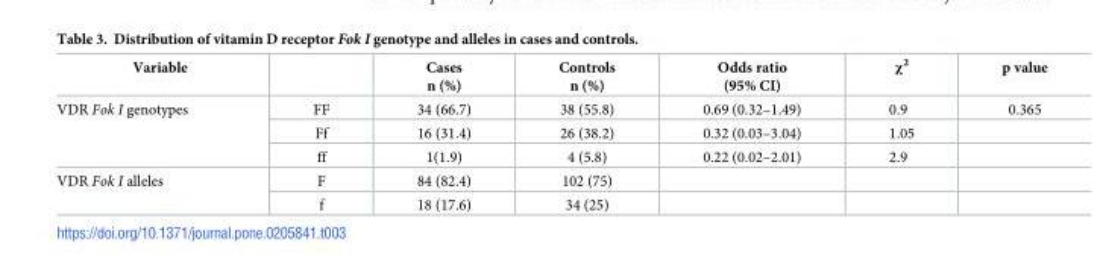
<table><thead><tr><td>Variable</td><td></td><td>Cases n (%)</td><td>Controls n (%)</td><td>Odds ratio (95% CI)</td><td>χ<sup>2</sup></td><td>p value</td></tr></thead><tbody><tr><td rowspan="3">VDR Fok I genotypes</td><td>FF</td><td>34 (66.7)</td><td>38 (55.8)</td><td>0.69 (0.32–1.49)</td><td>0.9</td><td>0.365</td></tr><tr><td>Ff</td><td>16 (31.4)</td><td>26 (38.2)</td><td>0.32 (0.03–3.04)</td><td>1.05</td><td></td></tr><tr><td>ff</td><td>1(1.9)</td><td>4 (5.8)</td><td>0.22 (0.02–2.01)</td><td>2.9</td><td></td></tr><tr><td rowspan="2">VDR Fok I alleles</td><td>F</td><td>84 (82.4)</td><td>102 (75)</td><td></td><td></td><td></td></tr><tr><td>f</td><td>18 (17.6)</td><td>34 (25)</td><td></td><td></td><td></td></tr></tbody></table>